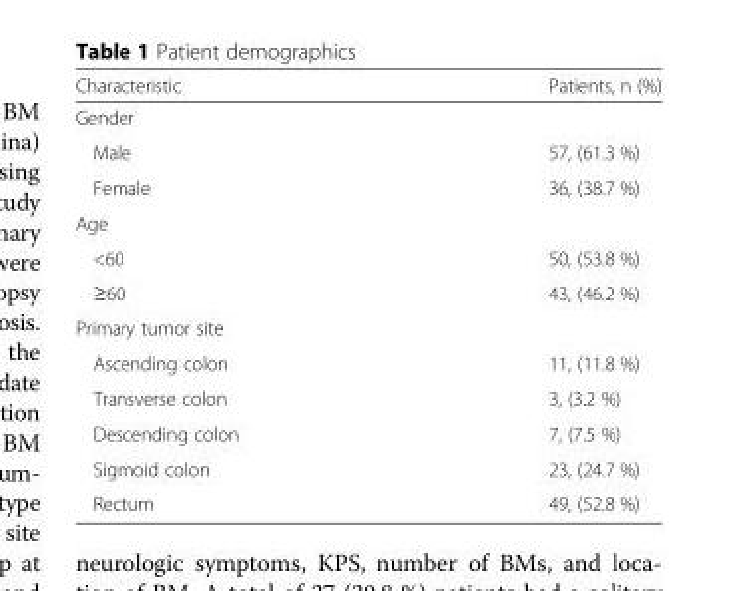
<table><thead><tr><td>Characteristic</td><td>Patients, n (%)</td></tr></thead><tbody><tr><td colspan="2">Gender</td></tr><tr><td>Male</td><td>57, (61.3 %)</td></tr><tr><td>Female</td><td>36, (38.7 %)</td></tr><tr><td colspan="2">Age</td></tr><tr><td>&lt;60</td><td>50, (53.8 %)</td></tr><tr><td>≥60</td><td>43, (46.2 %)</td></tr><tr><td colspan="2">Primary tumor site</td></tr><tr><td>Ascending colon</td><td>11, (11.8 %)</td></tr><tr><td>Transverse colon</td><td>3, (3.2 %)</td></tr><tr><td>Descending colon</td><td>7, (7.5 %)</td></tr><tr><td>Sigmoid colon</td><td>23, (24.7 %)</td></tr><tr><td>Rectum</td><td>49, (52.8 %)</td></tr></tbody></table>